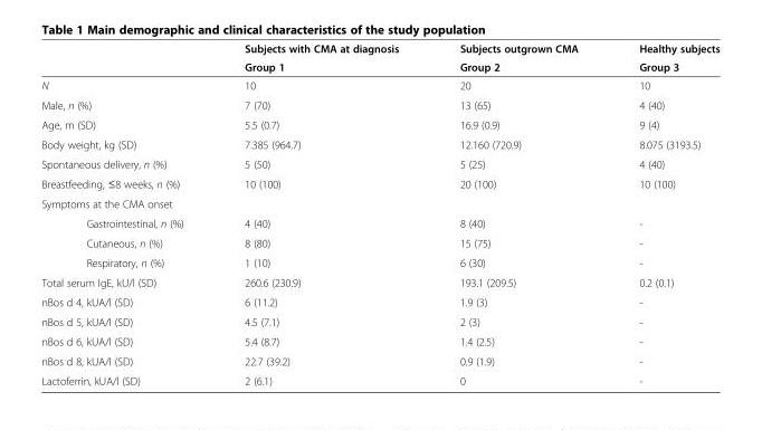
<table><thead><tr><td rowspan="2"></td><td rowspan="2">Subjects with CMA at diagnosis Group 1</td><td rowspan="2">Subjects outgrown CMA Group 2</td><td rowspan="2">Healthy subjects Group 3</td></tr><tr></tr></thead><tbody><tr><td>N</td><td>10</td><td>20</td><td>10</td></tr><tr><td>Male, n (%)</td><td>7 (70)</td><td>13 (65)</td><td>4 (40)</td></tr><tr><td>Age, m (SD)</td><td>5.5 (0.7)</td><td>16.9 (0.9)</td><td>9 (4)</td></tr><tr><td>Body weight, kg (SD)</td><td>7.385 (964.7)</td><td>12.160 (720.9)</td><td>8.075 (3193.5)</td></tr><tr><td>Spontaneous delivery, n (%)</td><td>5 (50)</td><td>5 (25)</td><td>4 (40)</td></tr><tr><td>Breastfeeding, ≤8 weeks, n (%)</td><td>10 (100)</td><td>20 (100)</td><td>10 (100)</td></tr><tr><td colspan="4">Symptoms at the CMA onset</td></tr><tr><td>Gastrointestinal, n (%)</td><td>4 (40)</td><td>8 (40)</td><td>-</td></tr><tr><td>Cutaneous, n (%)</td><td>8 (80)</td><td>15 (75)</td><td>-</td></tr><tr><td>Respiratory, n (%)</td><td>1 (10)</td><td>6 (30)</td><td>-</td></tr><tr><td>Total serum IgE, kU/l (SD)</td><td>260.6 (230.9)</td><td>193.1 (209.5)</td><td>0.2 (0.1)</td></tr><tr><td>nBos d 4, kUA/l (SD)</td><td>6 (11.2)</td><td>1.9 (3)</td><td>-</td></tr><tr><td>nBos d 5, kUA/l (SD)</td><td>4.5 (7.1)</td><td>2 (3)</td><td>-</td></tr><tr><td>nBos d 6, kUA/l (SD)</td><td>5.4 (8.7)</td><td>1.4 (2.5)</td><td>-</td></tr><tr><td>nBos d 8, kUA/l (SD)</td><td>22.7 (39.2)</td><td>0.9 (1.9)</td><td>-</td></tr><tr><td>Lactoferrin, kUA/l (SD)</td><td>2 (6.1)</td><td>0</td><td>-</td></tr></tbody></table>